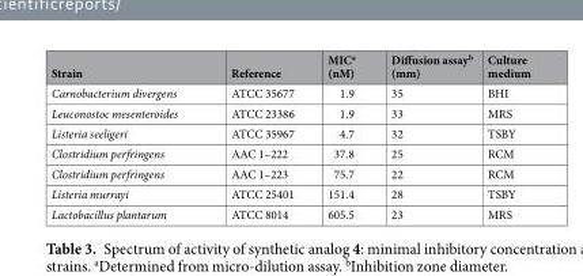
<table><thead><tr><td>Strain</td><td>Reference</td><td>MIC<sup>a</sup> (nM)</td><td>Diffusion assay<sup>b</sup> (mm)</td><td>Culture medium</td></tr></thead><tbody><tr><td>Carnobacterium divergens</td><td>ATCC 35677</td><td>1.9</td><td>35</td><td>BHI</td></tr><tr><td>Leuconostoc mesenteroides</td><td>ATCC 23386</td><td>1.9</td><td>33</td><td>MRS</td></tr><tr><td>Listeria seeligeri</td><td>ATCC 35967</td><td>4.7</td><td>32</td><td>TSBY</td></tr><tr><td>Clostridium perfringens</td><td>AAC 1–222</td><td>37.8</td><td>25</td><td>RCM</td></tr><tr><td>Clostridium perfringens</td><td>AAC 1–223</td><td>75.7</td><td>22</td><td>RCM</td></tr><tr><td>Listeria murrayi</td><td>ATCC 25401</td><td>151.4</td><td>28</td><td>TSBY</td></tr><tr><td>Lactobacillus plantarum</td><td>ATCC 8014</td><td>605.5</td><td>23</td><td>MRS</td></tr></tbody></table>